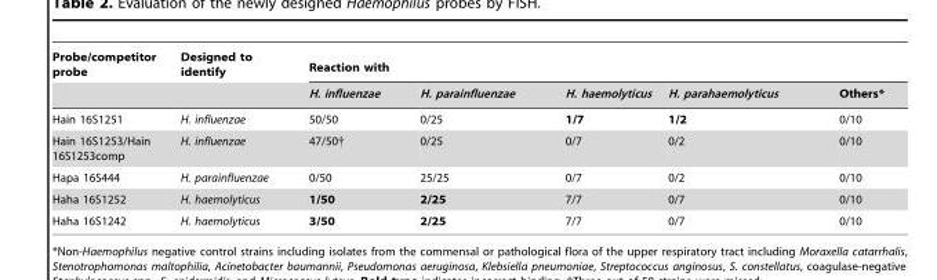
<table><thead><tr><td rowspan="2">Probe/competitor probe</td><td rowspan="2">Designed to identify</td><td colspan="5">Reaction with</td></tr><tr><td>H. influenzae</td><td>H. parainfluenzae</td><td>H. haemolyticus</td><td>H. parahaemolyticus</td><td>Others*</td></tr></thead><tbody><tr><td>Hain 16S1251</td><td>H. influenzae</td><td>50/50</td><td>0/25</td><td>1/7</td><td>1/2</td><td>0/10</td></tr><tr><td>Hain 16S1253/Hain 16S1253comp</td><td>H. influenzae</td><td>47/50†</td><td>0/25</td><td>0/7</td><td>0/2</td><td>0/10</td></tr><tr><td>Hapa 16S444</td><td>H. parainfluenzae</td><td>0/50</td><td>25/25</td><td>0/7</td><td>0/2</td><td>0/10</td></tr><tr><td>Haha 16S1252</td><td>H. haemolyticus</td><td>1/50</td><td>2/25</td><td>7/7</td><td>0/7</td><td>0/10</td></tr><tr><td>Haha 16S1242</td><td>H. haemolyticus</td><td>3/50</td><td>2/25</td><td>7/7</td><td>0/7</td><td>0/10</td></tr></tbody></table>